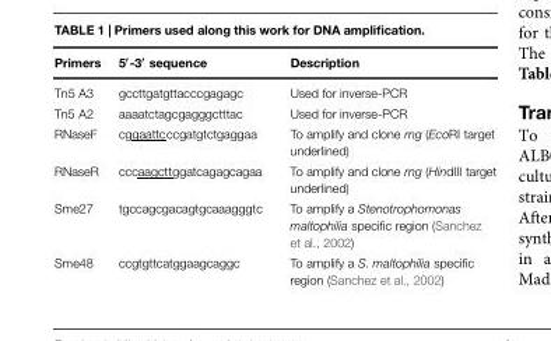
<table><thead><tr><td>Primers</td><td>5′-3′ sequence</td><td>Description</td></tr></thead><tbody><tr><td>Tn5 A3</td><td>gccttgatgttacccgagagc</td><td>Used for inverse-PCR</td></tr><tr><td>Tn5 A2</td><td>aaaatctagcgagggctttac</td><td>Used for inverse-PCR</td></tr><tr><td>RNaseF</td><td>cggaattcccgatgtctgaggaa</td><td>To amplify and clone rng (EcoRI target underlined)</td></tr><tr><td>RNaseR</td><td>cccaagcttggatcagagcagaa</td><td>To amplify and clone rng (HindIII target underlined)</td></tr><tr><td>Sme27</td><td>tgccagcgacagtgcaaagggtc</td><td>To amplify a Stenotrophomonas maltophilia specific region (Sanchez et al., 2002)</td></tr><tr><td>Sme48</td><td>ccgtgttcatggaagcaggc</td><td>To amplify a S. maltophilia specific region (Sanchez et al., 2002)</td></tr></tbody></table>